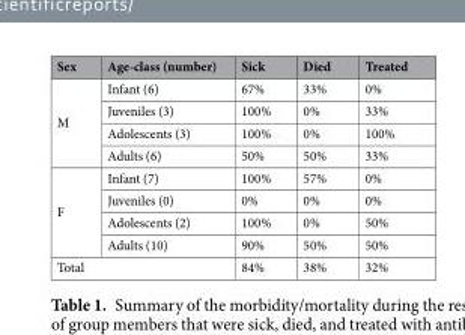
<table><thead><tr><td>Sex</td><td>Age-class (number)</td><td>Sick</td><td>Died</td><td>Treated</td></tr></thead><tbody><tr><td rowspan="4">M</td><td>Infant (6)</td><td>67%</td><td>33%</td><td>0%</td></tr><tr><td>Juveniles (3)</td><td>100%</td><td>0%</td><td>33%</td></tr><tr><td>Adolescents (3)</td><td>100%</td><td>0%</td><td>100%</td></tr><tr><td>Adults (6)</td><td>50%</td><td>50%</td><td>33%</td></tr><tr><td rowspan="4">F</td><td>Infant (7)</td><td>100%</td><td>57%</td><td>0%</td></tr><tr><td>Juveniles (0)</td><td>0%</td><td>0%</td><td>0%</td></tr><tr><td>Adolescents (2)</td><td>100%</td><td>0%</td><td>50%</td></tr><tr><td>Adults (10)</td><td>90%</td><td>50%</td><td>50%</td></tr><tr><td colspan="2">Total</td><td>84%</td><td>38%</td><td>32%</td></tr></tbody></table>